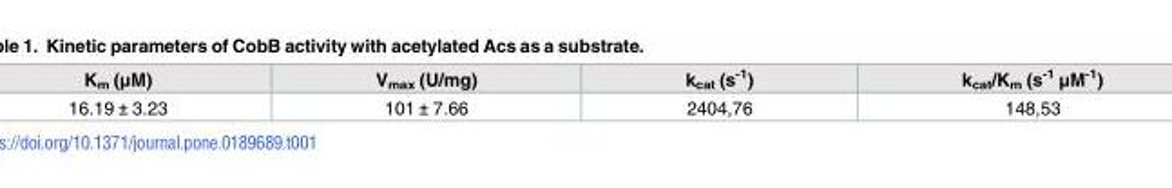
<table><thead><tr><td>K<sub>m</sub> (μM)</td><td>V<sub>max</sub> (U/mg)</td><td>k<sub>cat</sub> (s<sup>-1</sup>)</td><td>k<sub>cat</sub>/K<sub>m</sub> (s<sup>-1</sup> μM<sup>-1</sup>)</td></tr></thead><tbody><tr><td>16.19 ± 3.23</td><td>101 ± 7.66</td><td>2404,76</td><td>148,53</td></tr></tbody></table>